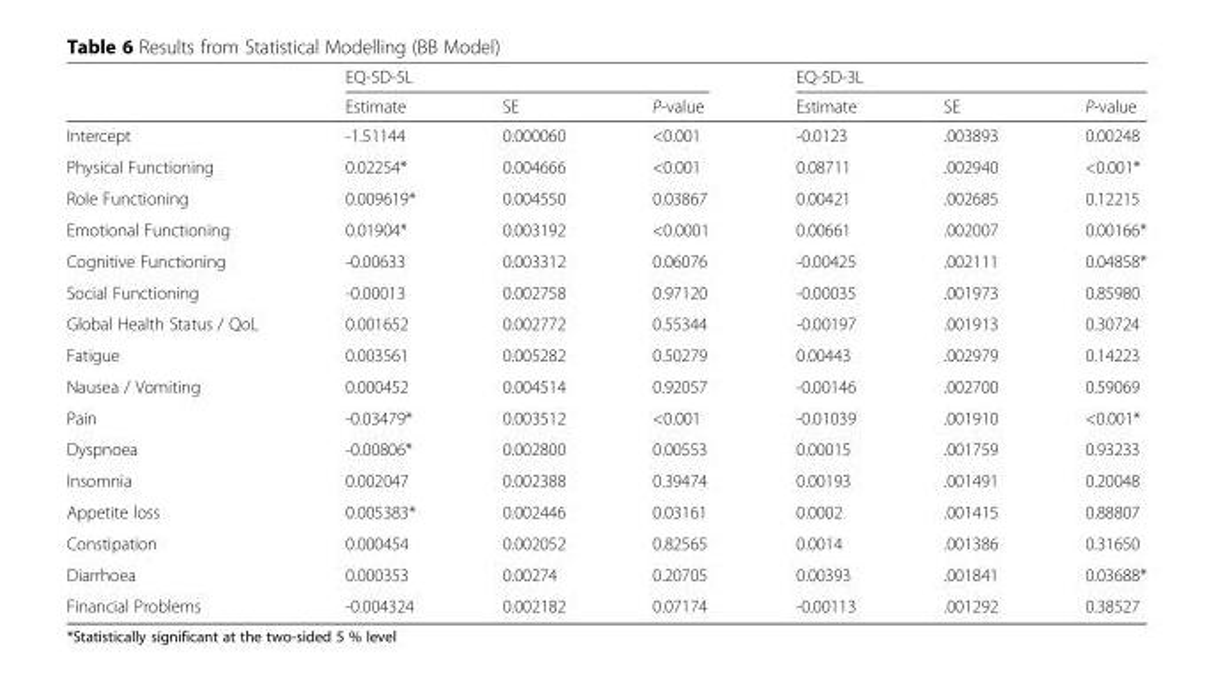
<table><thead><tr><td rowspan="2"></td><td colspan="3">EQ-5D-5L</td><td colspan="3">EQ-5D-3L</td></tr><tr><td>Estimate</td><td>SE</td><td>P-value</td><td>Estimate</td><td>SE</td><td>P-value</td></tr></thead><tbody><tr><td>Intercept</td><td>-1.51144</td><td>0.000060</td><td>&lt;0.001</td><td>-0.0123</td><td>.003893</td><td>0.00248</td></tr><tr><td>Physical Functioning</td><td>0.02254*</td><td>0.004666</td><td>&lt;0.001</td><td>0.08711</td><td>.002940</td><td>&lt;0.001*</td></tr><tr><td>Role Functioning</td><td>0.009619*</td><td>0.004550</td><td>0.03867</td><td>0.00421</td><td>.002685</td><td>0.12215</td></tr><tr><td>Emotional Functioning</td><td>0.01904*</td><td>0.003192</td><td>&lt;0.0001</td><td>0.00661</td><td>.002007</td><td>0.00166*</td></tr><tr><td>Cognitive Functioning</td><td>-0.00633</td><td>0.003312</td><td>0.06076</td><td>-0.00425</td><td>.002111</td><td>0.04858*</td></tr><tr><td>Social Functioning</td><td>-0.00013</td><td>0.002758</td><td>0.97120</td><td>-0.00035</td><td>.001973</td><td>0.85980</td></tr><tr><td>Global Health Status / QoL</td><td>0.001652</td><td>0.002772</td><td>0.55344</td><td>-0.00197</td><td>.001913</td><td>0.30724</td></tr><tr><td>Fatigue</td><td>0.003561</td><td>0.005282</td><td>0.50279</td><td>0.00443</td><td>.002979</td><td>0.14223</td></tr><tr><td>Nausea / Vomiting</td><td>0.000452</td><td>0.004514</td><td>0.92057</td><td>-0.00146</td><td>.002700</td><td>0.59069</td></tr><tr><td>Pain</td><td>-0.03479*</td><td>0.003512</td><td>&lt;0.001</td><td>-0.01039</td><td>.001910</td><td>&lt;0.001*</td></tr><tr><td>Dyspnoea</td><td>-0.00806*</td><td>0.002800</td><td>0.00553</td><td>0.00015</td><td>.001759</td><td>0.93233</td></tr><tr><td>Insomnia</td><td>0.002047</td><td>0.002388</td><td>0.39474</td><td>0.00193</td><td>.001491</td><td>0.20048</td></tr><tr><td>Appetite loss</td><td>0.005383*</td><td>0.002446</td><td>0.03161</td><td>0.0002</td><td>.001415</td><td>0.88807</td></tr><tr><td>Constipation</td><td>0.000454</td><td>0.002052</td><td>0.82565</td><td>0.0014</td><td>.001386</td><td>0.31650</td></tr><tr><td>Diarrhoea</td><td>0.000353</td><td>0.00274</td><td>0.20705</td><td>0.00393</td><td>.001841</td><td>0.03688*</td></tr><tr><td>Financial Problems</td><td>-0.004324</td><td>0.002182</td><td>0.07174</td><td>-0.00113</td><td>.001292</td><td>0.38527</td></tr></tbody></table>